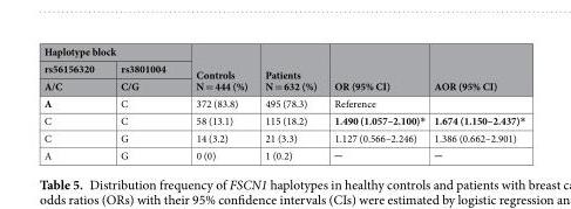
<table><thead><tr><td colspan="2">Haplotype block</td><td rowspan="3">Controls N = 444 (%)</td><td rowspan="3">Patients N = 632 (%)</td><td rowspan="3">OR (95% CI)</td><td rowspan="3">AOR (95% CI)</td></tr><tr><td rowspan="2">rs56156320 A/C</td><td rowspan="2">rs3801004 C/G</td></tr><tr></tr></thead><tbody><tr><td>A</td><td>C</td><td>372 (83.8)</td><td>495 (78.3)</td><td>Reference</td><td></td></tr><tr><td>C</td><td>C</td><td>58 (13.1)</td><td>115 (18.2)</td><td>1.490 (1.057–2.100)*</td><td>1.674 (1.150–2.437)*</td></tr><tr><td>C</td><td>G</td><td>14 (3.2)</td><td>21 (3.3)</td><td>1.127 (0.566–2.246)</td><td>1.386 (0.662–2.901)</td></tr><tr><td>A</td><td>G</td><td>0 (0)</td><td>1 (0.2)</td><td>─</td><td>─</td></tr></tbody></table>